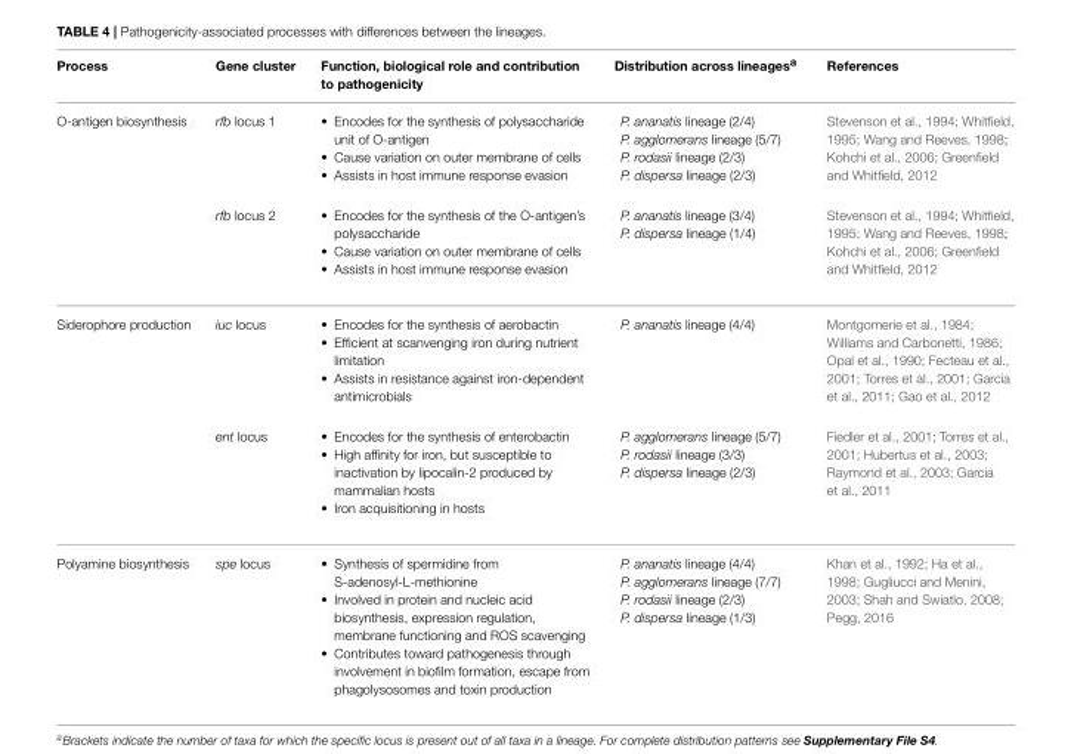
<table><thead><tr><td>Process</td><td>Gene cluster</td><td>Function, biological role and contribution to pathogenicity</td><td>Distribution across lineages<sup>a</sup></td><td>References</td></tr></thead><tbody><tr><td rowspan="2">O-antigen biosynthesis</td><td>rfb locus 1</td><td>• Encodes for the synthesis of polysaccharide unit of O-antigen • Cause variation on outer membrane of cells • Assists in host immune response evasion</td><td>P. ananatis lineage (2/4) P. agglomerans lineage (5/7) P. rodasii lineage (2/3) P. dispersa lineage (2/3)</td><td>Stevenson et al., 1994; Whitfield, 1995; Wang and Reeves, 1998; Kohchi et al., 2006; Greenfield and Whitfield, 2012</td></tr><tr><td>rfb locus 2</td><td>• Encodes for the synthesis of the O-antigen’s polysaccharide • Cause variation on outer membrane of cells • Assists in host immune response evasion</td><td>P. ananatis lineage (3/4) P. dispersa lineage (1/4)</td><td>Stevenson et al., 1994; Whitfield, 1995; Wang and Reeves, 1998; Kohchi et al., 2006; Greenfield and Whitfield, 2012</td></tr><tr><td rowspan="2">Siderophore production</td><td>iuc locus</td><td>• Encodes for the synthesis of aerobactin • Efficient at scanvenging iron during nutrient limitation • Assists in resistance against iron-dependent antimicrobials</td><td>P. ananatis lineage (4/4)</td><td>Montgomerie et al., 1984; Williams and Carbonetti, 1986; Opal et al., 1990; Fecteau et al., 2001; Torres et al., 2001; Garcia et al., 2011; Gao et al., 2012</td></tr><tr><td>ent locus</td><td>• Encodes for the synthesis of enterobactin • High affinity for iron, but susceptible to inactivation by lipocalin-2 produced by mammalian hosts • Iron acquisitioning in hosts</td><td>P. agglomerans lineage (5/7) P. rodasii lineage (3/3) P. dispersa lineage (2/3)</td><td>Fiedler et al., 2001; Torres et al., 2001; Hubertus et al., 2003; Raymond et al., 2003; Garcia et al., 2011</td></tr><tr><td>Polyamine biosynthesis</td><td>spe locus</td><td>• Synthesis of spermidine from S-adenosyl-L-methionine • Involved in protein and nucleic acid biosynthesis, expression regulation, membrane functioning and ROS scavenging • Contributes toward pathogenesis through involvement in biofilm formation, escape from phagolysosomes and toxin production</td><td>P. ananatis lineage (4/4) P. agglomerans lineage (7/7) P. rodasii lineage (2/3) P. dispersa lineage (1/3)</td><td>Khan et al., 1992; Ha et al., 1998; Gugliucci and Menini, 2003; Shah and Swiatlo, 2008; Pegg, 2016</td></tr></tbody></table>